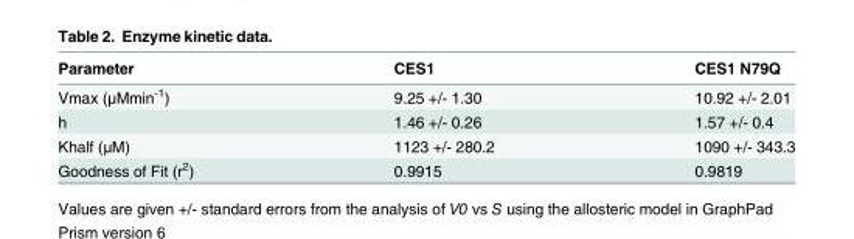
<table><thead><tr><td>Parameter</td><td>CES1</td><td>CES1 N79Q</td></tr></thead><tbody><tr><td>Vmax (μMmin<sup>-1</sup>)</td><td>9.25 +/- 1.30</td><td>10.92 +/- 2.01</td></tr><tr><td>h</td><td>1.46 +/- 0.26</td><td>1.57 +/- 0.4</td></tr><tr><td>Khalf (μM)</td><td>1123 +/- 280.2</td><td>1090 +/- 343.3</td></tr><tr><td>Goodness of Fit (r<sup>2</sup>)</td><td>0.9915</td><td>0.9819</td></tr></tbody></table>